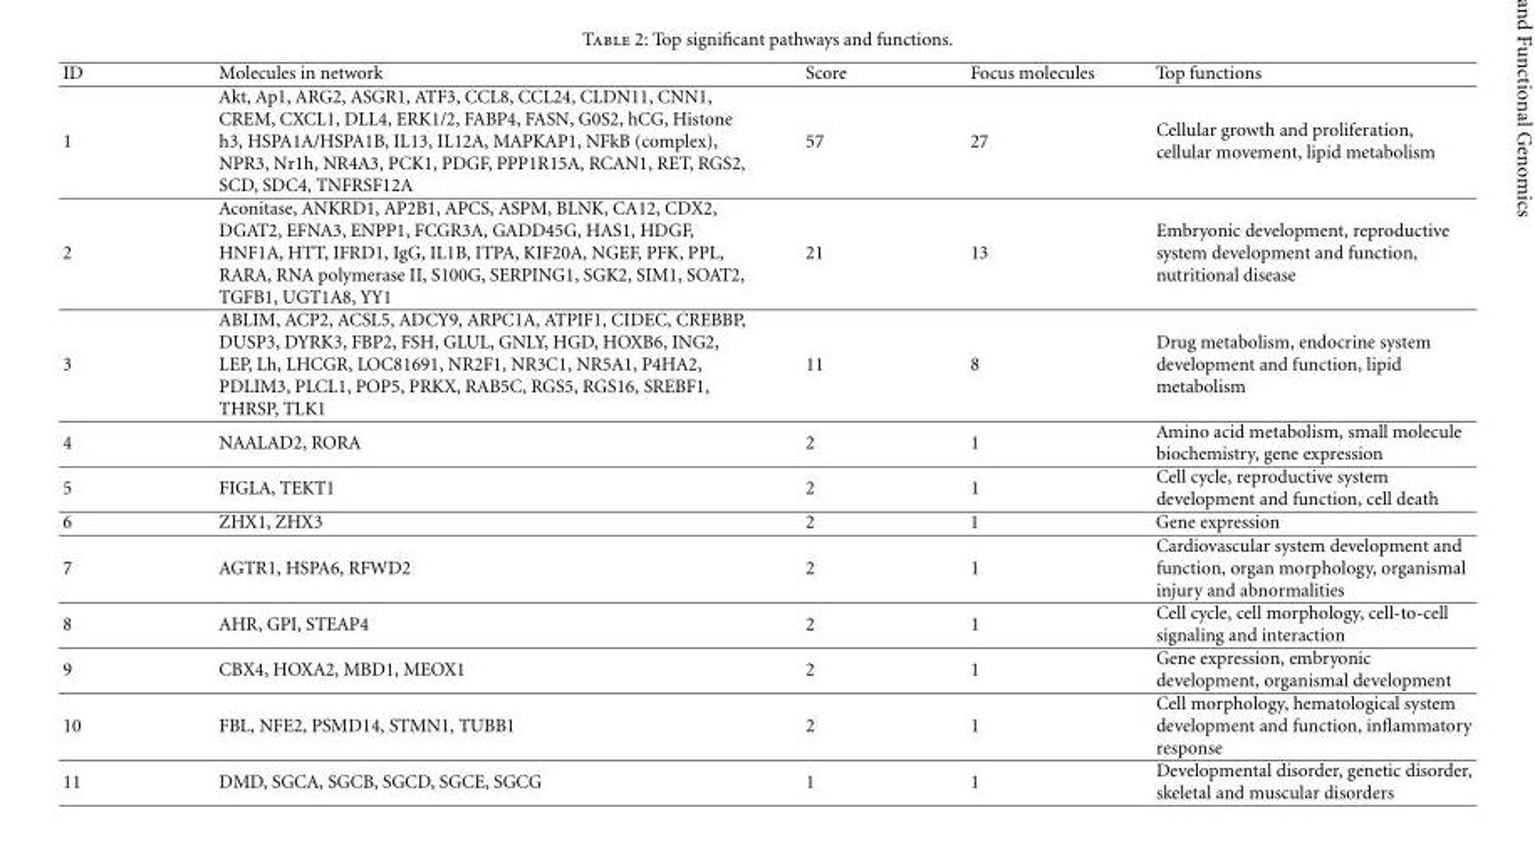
<table><thead><tr><td>ID</td><td>Molecules in network</td><td>Score</td><td>Focus molecules</td><td>Top functions</td></tr></thead><tbody><tr><td>1</td><td>Akt, Ap1, ARG2, ASGR1, ATF3, CCL8, CCL24, CLDN11, CNN1, CREM, CXCL1, DLL4, ERK1/2, FABP4, FASN, G0S2, hCG, Histone h3, HSPA1A/HSPA1B, IL13, IL12A, MAPKAP1, NFkB (complex), NPR3, Nr1h, NR4A3, PCK1, PDGF, PPP1R15A, RCAN1, RET, RGS2, SCD, SDC4, TNFRSF12A</td><td>57</td><td>27</td><td>Cellular growth and proliferation, cellular movement, lipid metabolism</td></tr><tr><td>2</td><td>Aconitase, ANKRD1, AP2B1, APCS, ASPM, BLNK, CA12, CDX2, DGAT2, EFNA3, ENPP1, FCGR3A, GADD45G, HAS1, HDGF, HNF1A, HTT, IFRD1, IgG, IL1B, ITPA, KIF20A, NGEF, PFK, PPL, RARA, RNA polymerase II, S100G, SERPING1, SGK2, SIM1, SOAT2, TGFB1, UGT1A8, YY1</td><td>21</td><td>13</td><td>Embryonic development, reproductive system development and function, nutritional disease</td></tr><tr><td>3</td><td>ABLIM, ACP2, ACSL5, ADCY9, ARPC1A, ATPIF1, CIDEC, CREBBP, DUSP3, DYRK3, FBP2, FSH, GLUL, GNLY, HGD, HOXB6, ING2, LEP, Lh, LHCGR, LOC81691, NR2F1, NR3C1, NR5A1, P4HA2, PDLIM3, PLCL1, POP5, PRKX, RAB5C, RGS5, RGS16, SREBF1, THRSP, TLK1</td><td>11</td><td>8</td><td>Drug metabolism, endocrine system development and function, lipid metabolism</td></tr><tr><td>4</td><td>NAALAD2, RORA</td><td>2</td><td>1</td><td>Amino acid metabolism, small molecule biochemistry, gene expression</td></tr><tr><td>5</td><td>FIGLA, TEKT1</td><td>2</td><td>1</td><td>Cell cycle, reproductive system development and function, cell death</td></tr><tr><td>6</td><td>ZHX1, ZHX3</td><td>2</td><td>1</td><td>Gene expression</td></tr><tr><td>7</td><td>AGTR1, HSPA6, RFWD2</td><td>2</td><td>1</td><td>Cardiovascular system development and function, organ morphology, organismal injury and abnormalities</td></tr><tr><td>8</td><td>AHR, GPI, STEAP4</td><td>2</td><td>1</td><td>Cell cycle, cell morphology, cell-to-cell signaling and interaction</td></tr><tr><td>9</td><td>CBX4, HOXA2, MBD1, MEOX1</td><td>2</td><td>1</td><td>Gene expression, embryonic development, organismal development</td></tr><tr><td>10</td><td>FBL, NFE2, PSMD14, STMN1, TUBB1</td><td>2</td><td>1</td><td>Cell morphology, hematological system development and function, inflammatory response</td></tr><tr><td>11</td><td>DMD, SGCA, SGCB, SGCD, SGCE, SGCG</td><td>1</td><td>1</td><td>Developmental disorder, genetic disorder, skeletal and muscular disorders</td></tr></tbody></table>